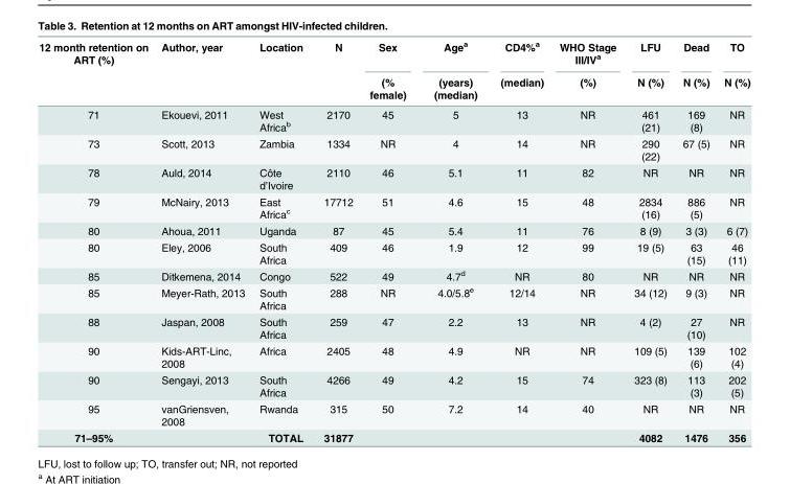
<table><thead><tr><td rowspan="2">12 month retention on ART (%)</td><td rowspan="2">Author, year</td><td rowspan="2">Location</td><td rowspan="2">N</td><td rowspan="2">Sex (% female)</td><td rowspan="2">Age<sup>a</sup> (years) (median)</td><td rowspan="2">CD4%<sup>a</sup> (median)</td><td rowspan="2">WHO Stage III/IV<sup>a</sup> (%)</td><td rowspan="2">LFU N (%)</td><td rowspan="2">Dead N (%)</td><td rowspan="2">TO N (%)</td></tr><tr></tr></thead><tbody><tr><td>71</td><td>Ekouevi, 2011</td><td>West Africa<sup>b</sup></td><td>2170</td><td>45</td><td>5</td><td>13</td><td>NR</td><td>461 (21)</td><td>169 (8)</td><td>NR</td></tr><tr><td>73</td><td>Scott, 2013</td><td>Zambia</td><td>1334</td><td>NR</td><td>4</td><td>14</td><td>NR</td><td>290 (22)</td><td>67 (5)</td><td>NR</td></tr><tr><td>78</td><td>Auld, 2014</td><td>Côte d’Ivoire</td><td>2110</td><td>46</td><td>5.1</td><td>11</td><td>82</td><td>NR</td><td>NR</td><td>NR</td></tr><tr><td>79</td><td>McNairy, 2013</td><td>East Africa<sup>c</sup></td><td>17712</td><td>51</td><td>4.6</td><td>15</td><td>48</td><td>2834 (16)</td><td>886 (5)</td><td>NR</td></tr><tr><td>80</td><td>Ahoua, 2011</td><td>Uganda</td><td>87</td><td>45</td><td>5.4</td><td>11</td><td>76</td><td>8 (9)</td><td>3 (3)</td><td>6 (7)</td></tr><tr><td>80</td><td>Eley, 2006</td><td>South Africa</td><td>409</td><td>46</td><td>1.9</td><td>12</td><td>99</td><td>19 (5)</td><td>63 (15)</td><td>46 (11)</td></tr><tr><td>85</td><td>Ditkemena, 2014</td><td>Congo</td><td>522</td><td>49</td><td>4.7<sup>d</sup></td><td>NR</td><td>80</td><td>NR</td><td>NR</td><td>NR</td></tr><tr><td>85</td><td>Meyer-Rath, 2013</td><td>South Africa</td><td>288</td><td>NR</td><td>4.0/5.8<sup>e</sup></td><td>12/14</td><td>NR</td><td>34 (12)</td><td>9 (3)</td><td>NR</td></tr><tr><td>88</td><td>Jaspan, 2008</td><td>South Africa</td><td>259</td><td>47</td><td>2.2</td><td>13</td><td>NR</td><td>4 (2)</td><td>27 (10)</td><td>NR</td></tr><tr><td>90</td><td>Kids-ART-Linc, 2008</td><td>Africa</td><td>2405</td><td>48</td><td>4.9</td><td>NR</td><td>NR</td><td>109 (5)</td><td>139 (6)</td><td>102 (4)</td></tr><tr><td>90</td><td>Sengayi, 2013</td><td>South Africa</td><td>4266</td><td>49</td><td>4.2</td><td>15</td><td>74</td><td>323 (8)</td><td>113 (3)</td><td>202 (5)</td></tr><tr><td>95</td><td>vanGriensven, 2008</td><td>Rwanda</td><td>315</td><td>50</td><td>7.2</td><td>14</td><td>40</td><td>NR</td><td>NR</td><td>NR</td></tr><tr><td>71–95%</td><td></td><td>TOTAL</td><td>31877</td><td></td><td></td><td></td><td></td><td>4082</td><td>1476</td><td>356</td></tr></tbody></table>